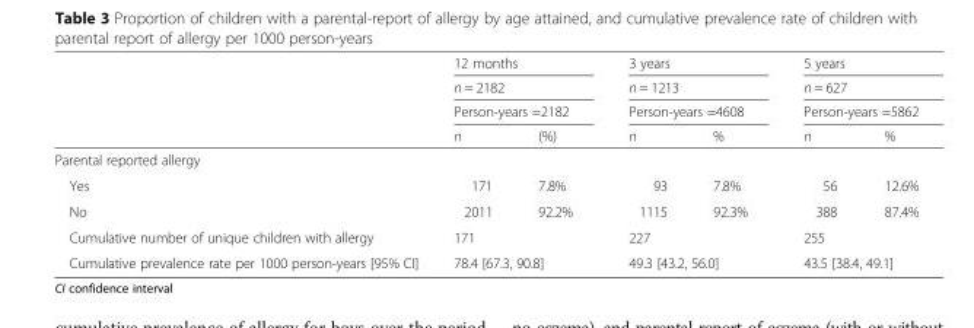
<table><thead><tr><td rowspan="4"></td><td rowspan="3" colspan="2">12 months n = 2182 Person-years =2182</td><td rowspan="3" colspan="2">3 years n = 1213 Person-years =4608</td><td rowspan="3" colspan="2">5 years n = 627 Person-years =5862</td></tr><tr></tr><tr></tr><tr><td>n</td><td>(%)</td><td>n</td><td>%</td><td>n</td><td>%</td></tr></thead><tbody><tr><td colspan="7">Parental reported allergy</td></tr><tr><td>Yes</td><td>171</td><td>7.8%</td><td>93</td><td>7.8%</td><td>56</td><td>12.6%</td></tr><tr><td>No</td><td>2011</td><td>92.2%</td><td>1115</td><td>92.3%</td><td>388</td><td>87.4%</td></tr><tr><td>Cumulative number of unique children with allergy</td><td colspan="2">171</td><td colspan="2">227</td><td colspan="2">255</td></tr><tr><td>Cumulative prevalence rate per 1000 person-years [95% CI]</td><td colspan="2">78.4 [67.3, 90.8]</td><td colspan="2">49.3 [43.2, 56.0]</td><td colspan="2">43.5 [38.4, 49.1]</td></tr></tbody></table>